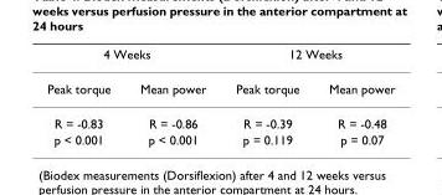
<table><thead><tr><td colspan="2">4 Weeks</td><td colspan="2">12 Weeks</td></tr><tr><td>Peak torque</td><td>Mean power</td><td>Peak torque</td><td>Mean power</td></tr></thead><tbody><tr><td>R = -0.83</td><td>R = -0.86</td><td>R = -0.39</td><td>R = -0.48</td></tr><tr><td>p &lt; 0.001</td><td>p &lt; 0.001</td><td>p = 0.119</td><td>p = 0.07</td></tr></tbody></table>